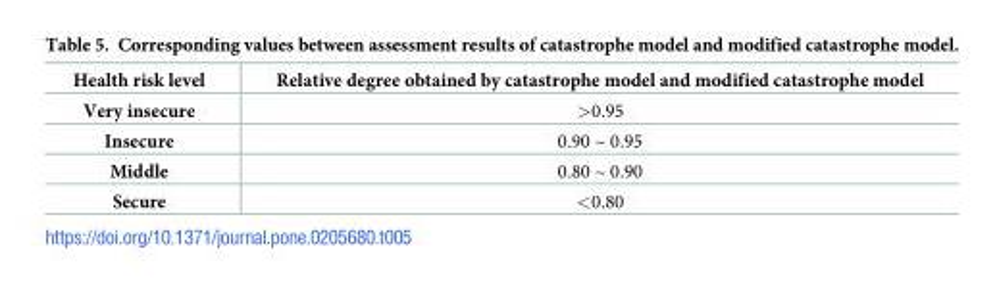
<table><thead><tr><td>Health risk level</td><td>Relative degree obtained by catastrophe model and modified catastrophe model</td></tr></thead><tbody><tr><td>Very insecure</td><td>&gt;0.95</td></tr><tr><td>Insecure</td><td>0.90 ~ 0.95</td></tr><tr><td>Middle</td><td>0.80 ~ 0.90</td></tr><tr><td>Secure</td><td>&lt;0.80</td></tr></tbody></table>